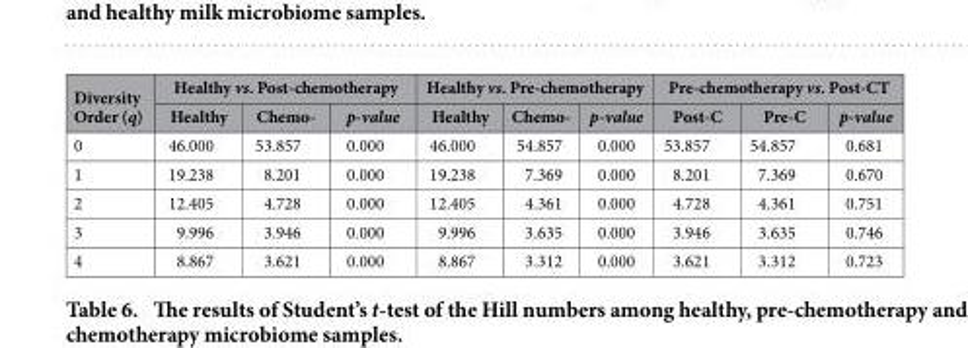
<table><thead><tr><td rowspan="2">Diversity Order (q)</td><td colspan="3">Healthy vs. Post-chemotherapy</td><td colspan="3">Healthy vs. Pre-chemotherapy</td><td colspan="3">Pre-chemotherapy vs. Post-CT</td></tr><tr><td>Healthy</td><td>Chemo-</td><td>p-value</td><td>Healthy</td><td>Chemo-</td><td>p-value</td><td>Post-C</td><td>Pre-C</td><td>p-value</td></tr></thead><tbody><tr><td>0</td><td>46.000</td><td>53.857</td><td>0.000</td><td>46.000</td><td>54.857</td><td>0.000</td><td>53.857</td><td>54.857</td><td>0.681</td></tr><tr><td>1</td><td>19.238</td><td>8.201</td><td>0.000</td><td>19.238</td><td>7.369</td><td>0.000</td><td>8.201</td><td>7.369</td><td>0.670</td></tr><tr><td>2</td><td>12.405</td><td>4.728</td><td>0.000</td><td>12.405</td><td>4.361</td><td>0.000</td><td>4.728</td><td>4.361</td><td>0.751</td></tr><tr><td>3</td><td>9.996</td><td>3.946</td><td>0.000</td><td>9.996</td><td>3.635</td><td>0.000</td><td>3.946</td><td>3.635</td><td>0.746</td></tr><tr><td>4</td><td>8.867</td><td>3.621</td><td>0.000</td><td>8.867</td><td>3.312</td><td>0.000</td><td>3.621</td><td>3.312</td><td>0.723</td></tr></tbody></table>